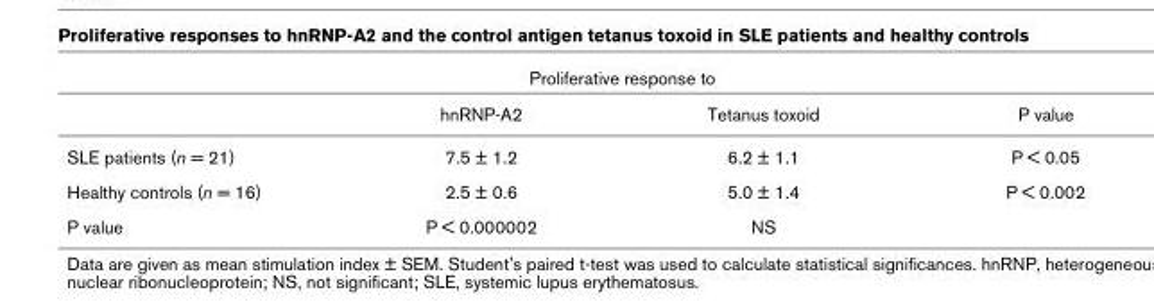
<table><thead><tr><td rowspan="2"></td><td colspan="2">Proliferative response to</td><td rowspan="2">P value</td></tr><tr><td>hnRNP-A2</td><td>Tetanus toxoid</td></tr></thead><tbody><tr><td>SLE patients (n = 21)</td><td>7.5 ± 1.2</td><td>6.2 ± 1.1</td><td>P &lt; 0.05</td></tr><tr><td>Healthy controls (n = 16)</td><td>2.5 ± 0.6</td><td>5.0 ± 1.4</td><td>P &lt; 0.002</td></tr><tr><td>P value</td><td>P &lt; 0.000002</td><td>NS</td><td></td></tr></tbody></table>